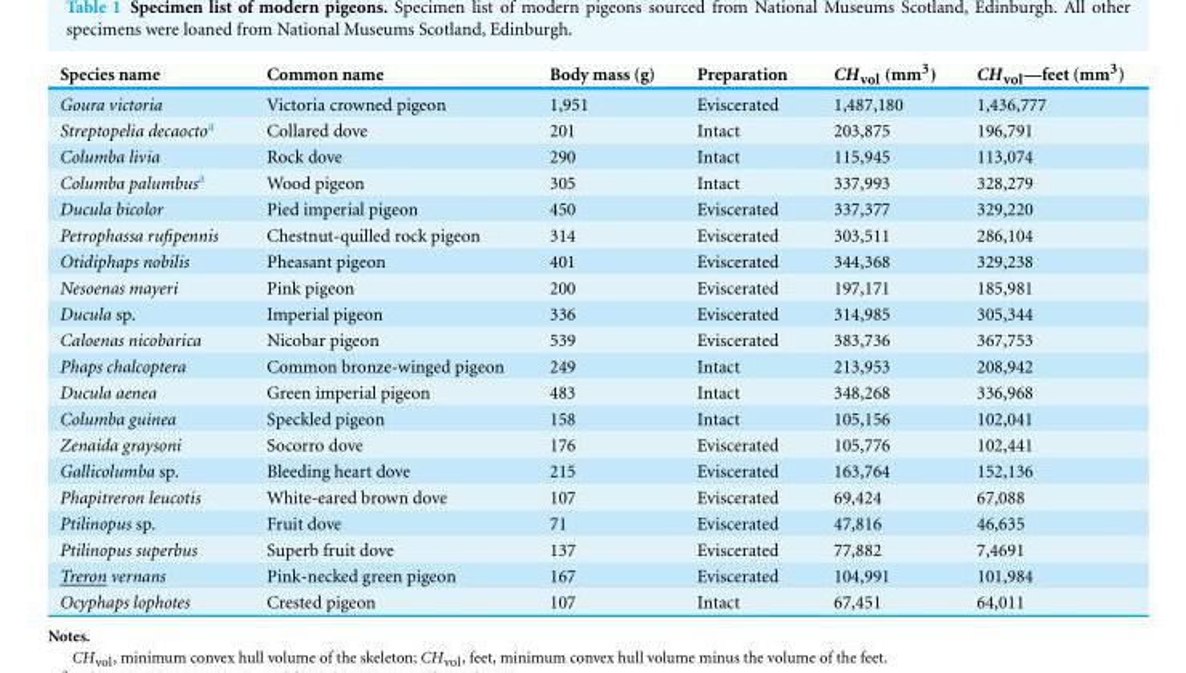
<table><thead><tr><td>Species name</td><td>Common name</td><td>Body mass (g)</td><td>Preparation</td><td>CH<sub>vol</sub> (mm<sup>3</sup>)</td><td>CH<sub>vol</sub>—feet (mm<sup>3</sup>)</td></tr></thead><tbody><tr><td>Goura victoria</td><td>Victoria crowned pigeon</td><td>1,951</td><td>Eviscerated</td><td>1,487,180</td><td>1,436,777</td></tr><tr><td>Streptopelia decaocto<sup>a</sup></td><td>Collared dove</td><td>201</td><td>Intact</td><td>203,875</td><td>196,791</td></tr><tr><td>Columba livia</td><td>Rock dove</td><td>290</td><td>Intact</td><td>115,945</td><td>113,074</td></tr><tr><td>Columba palumbus<sup>a</sup></td><td>Wood pigeon</td><td>305</td><td>Intact</td><td>337,993</td><td>328,279</td></tr><tr><td>Ducula bicolor</td><td>Pied imperial pigeon</td><td>450</td><td>Eviscerated</td><td>337,377</td><td>329,220</td></tr><tr><td>Petrophassa rufipennis</td><td>Chestnut-quilled rock pigeon</td><td>314</td><td>Eviscerated</td><td>303,511</td><td>286,104</td></tr><tr><td>Otidiphaps nobilis</td><td>Pheasant pigeon</td><td>401</td><td>Eviscerated</td><td>344,368</td><td>329,238</td></tr><tr><td>Nesoenas mayeri</td><td>Pink pigeon</td><td>200</td><td>Eviscerated</td><td>197,171</td><td>185,981</td></tr><tr><td>Ducula sp.</td><td>Imperial pigeon</td><td>336</td><td>Eviscerated</td><td>314,985</td><td>305,344</td></tr><tr><td>Caloenas nicobarica</td><td>Nicobar pigeon</td><td>539</td><td>Eviscerated</td><td>383,736</td><td>367,753</td></tr><tr><td>Phaps chalcoptera</td><td>Common bronze-winged pigeon</td><td>249</td><td>Intact</td><td>213,953</td><td>208,942</td></tr><tr><td>Ducula aenea</td><td>Green imperial pigeon</td><td>483</td><td>Intact</td><td>348,268</td><td>336,968</td></tr><tr><td>Columba guinea</td><td>Speckled pigeon</td><td>158</td><td>Intact</td><td>105,156</td><td>102,041</td></tr><tr><td>Zenaida graysoni</td><td>Socorro dove</td><td>176</td><td>Eviscerated</td><td>105,776</td><td>102,441</td></tr><tr><td>Gallicolumba sp.</td><td>Bleeding heart dove</td><td>215</td><td>Eviscerated</td><td>163,764</td><td>152,136</td></tr><tr><td>Phapitreron leucotis</td><td>White-eared brown dove</td><td>107</td><td>Eviscerated</td><td>69,424</td><td>67,088</td></tr><tr><td>Ptilinopus sp.</td><td>Fruit dove</td><td>71</td><td>Eviscerated</td><td>47,816</td><td>46,635</td></tr><tr><td>Ptilinopus superbus</td><td>Superb fruit dove</td><td>137</td><td>Eviscerated</td><td>77,882</td><td>7,4691</td></tr><tr><td>Treron vernans</td><td>Pink-necked green pigeon</td><td>167</td><td>Eviscerated</td><td>104,991</td><td>101,984</td></tr><tr><td>Ocyphaps lophotes</td><td>Crested pigeon</td><td>107</td><td>Intact</td><td>67,451</td><td>64,011</td></tr></tbody></table>